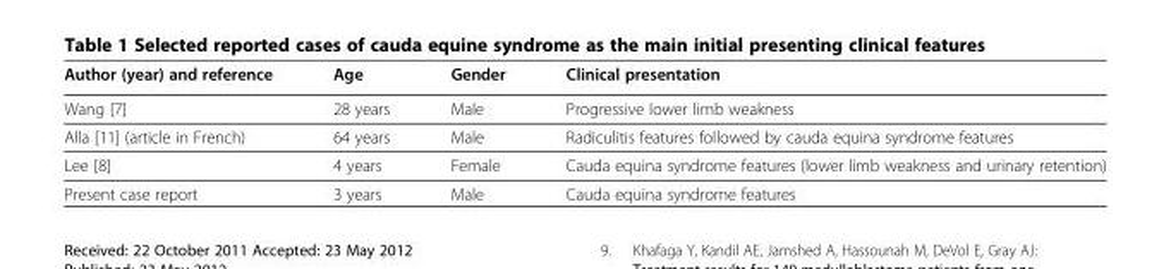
<table><thead><tr><td>Author (year) and reference</td><td>Age</td><td>Gender</td><td>Clinical presentation</td></tr></thead><tbody><tr><td>Wang [7]</td><td>28 years</td><td>Male</td><td>Progressive lower limb weakness</td></tr><tr><td>Alla [11] (article in French)</td><td>64 years</td><td>Male</td><td>Radiculitis features followed by cauda equina syndrome features</td></tr><tr><td>Lee [8]</td><td>4 years</td><td>Female</td><td>Cauda equina syndrome features (lower limb weakness and urinary retention)</td></tr><tr><td>Present case report</td><td>3 years</td><td>Male</td><td>Cauda equina syndrome features</td></tr></tbody></table>